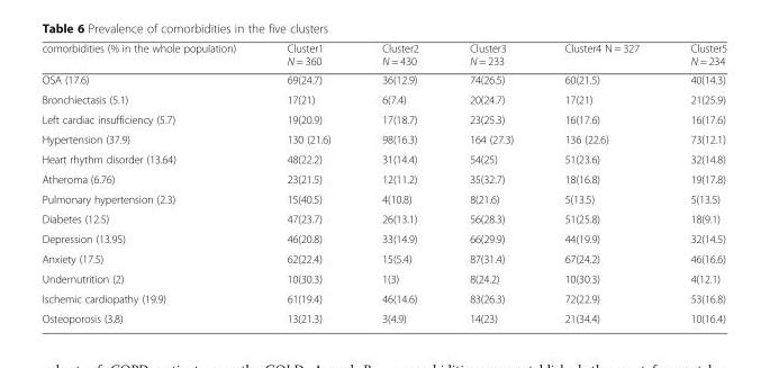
<table><thead><tr><td>comorbidities (% in the whole population)</td><td>Cluster1 N = 360</td><td>Cluster2 N = 430</td><td>Cluster3 N = 233</td><td>Cluster4 N = 327</td><td>Cluster5 N = 234</td></tr></thead><tbody><tr><td>OSA (17.6)</td><td>69(24.7)</td><td>36(12.9)</td><td>74(26.5)</td><td>60(21.5)</td><td>40(14.3)</td></tr><tr><td>Bronchiectasis (5.1)</td><td>17(21)</td><td>6(7.4)</td><td>20(24.7)</td><td>17(21)</td><td>21(25.9)</td></tr><tr><td>Left cardiac insufficiency (5.7)</td><td>19(20.9)</td><td>17(18.7)</td><td>23(25.3)</td><td>16(17.6)</td><td>16(17.6)</td></tr><tr><td>Hypertension (37.9)</td><td>130 (21.6)</td><td>98(16.3)</td><td>164 (27.3)</td><td>136 (22.6)</td><td>73(12.1)</td></tr><tr><td>Heart rhythm disorder (13.64)</td><td>48(22.2)</td><td>31(14.4)</td><td>54(25)</td><td>51(23.6)</td><td>32(14.8)</td></tr><tr><td>Atheroma (6.76)</td><td>23(21.5)</td><td>12(11.2)</td><td>35(32.7)</td><td>18(16.8)</td><td>19(17.8)</td></tr><tr><td>Pulmonary hypertension (2.3)</td><td>15(40.5)</td><td>4(10.8)</td><td>8(21.6)</td><td>5(13.5)</td><td>5(13.5)</td></tr><tr><td>Diabetes (12.5)</td><td>47(23.7)</td><td>26(13.1)</td><td>56(28.3)</td><td>51(25.8)</td><td>18(9.1)</td></tr><tr><td>Depression (13.95)</td><td>46(20.8)</td><td>33(14.9)</td><td>66(29.9)</td><td>44(19.9)</td><td>32(14.5)</td></tr><tr><td>Anxiety (17.5)</td><td>62(22.4)</td><td>15(5.4)</td><td>87(31.4)</td><td>67(24.2)</td><td>46(16.6)</td></tr><tr><td>Undernutrition (2)</td><td>10(30.3)</td><td>1(3)</td><td>8(24.2)</td><td>10(30.3)</td><td>4(12.1)</td></tr><tr><td>Ischemic cardiopathy (19.9)</td><td>61(19.4)</td><td>46(14.6)</td><td>83(26.3)</td><td>72(22.9)</td><td>53(16.8)</td></tr><tr><td>Osteoporosis (3.8)</td><td>13(21.3)</td><td>3(4.9)</td><td>14(23)</td><td>21(34.4)</td><td>10(16.4)</td></tr></tbody></table>